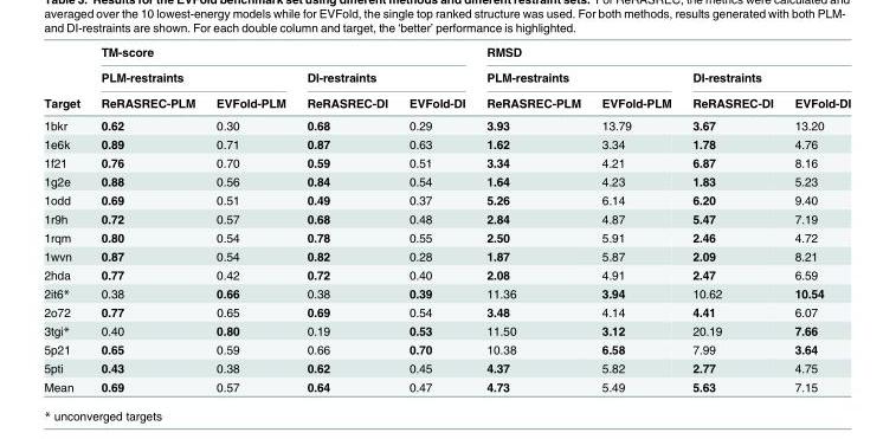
<table><thead><tr><td rowspan="3">Target</td><td colspan="4">TM-score</td><td colspan="4">RMSD</td></tr><tr><td colspan="2">PLM-restraints</td><td colspan="2">DI-restraints</td><td colspan="2">PLM-restraints</td><td colspan="2">DI-restraints</td></tr><tr><td>ReRASREC-PLM</td><td>EVFold-PLM</td><td>ReRASREC-DI</td><td>EVFold-DI</td><td>ReRASREC-PLM</td><td>EVFold-PLM</td><td>ReRASREC-DI</td><td>EVFold-DI</td></tr></thead><tbody><tr><td>1bkr</td><td>0.62</td><td>0.30</td><td>0.68</td><td>0.29</td><td>3.93</td><td>13.79</td><td>3.67</td><td>13.20</td></tr><tr><td>1e6k</td><td>0.89</td><td>0.71</td><td>0.87</td><td>0.63</td><td>1.62</td><td>3.34</td><td>1.78</td><td>4.76</td></tr><tr><td>1f21</td><td>0.76</td><td>0.70</td><td>0.59</td><td>0.51</td><td>3.34</td><td>4.21</td><td>6.87</td><td>8.16</td></tr><tr><td>1g2e</td><td>0.88</td><td>0.56</td><td>0.84</td><td>0.54</td><td>1.64</td><td>4.23</td><td>1.83</td><td>5.23</td></tr><tr><td>1odd</td><td>0.69</td><td>0.51</td><td>0.49</td><td>0.37</td><td>5.26</td><td>6.14</td><td>6.20</td><td>9.40</td></tr><tr><td>1r9h</td><td>0.72</td><td>0.57</td><td>0.68</td><td>0.48</td><td>2.84</td><td>4.87</td><td>5.47</td><td>7.19</td></tr><tr><td>1rqm</td><td>0.80</td><td>0.54</td><td>0.78</td><td>0.55</td><td>2.50</td><td>5.91</td><td>2.46</td><td>4.72</td></tr><tr><td>1wvn</td><td>0.87</td><td>0.54</td><td>0.82</td><td>0.28</td><td>1.87</td><td>5.87</td><td>2.09</td><td>8.21</td></tr><tr><td>2hda</td><td>0.77</td><td>0.42</td><td>0.72</td><td>0.40</td><td>2.08</td><td>4.91</td><td>2.47</td><td>6.59</td></tr><tr><td>2it6*</td><td>0.38</td><td>0.66</td><td>0.38</td><td>0.39</td><td>11.36</td><td>3.94</td><td>10.62</td><td>10.54</td></tr><tr><td>2o72</td><td>0.77</td><td>0.65</td><td>0.69</td><td>0.54</td><td>3.48</td><td>4.14</td><td>4.41</td><td>6.07</td></tr><tr><td>3tgi*</td><td>0.40</td><td>0.80</td><td>0.19</td><td>0.53</td><td>11.50</td><td>3.12</td><td>20.19</td><td>7.66</td></tr><tr><td>5p21</td><td>0.65</td><td>0.59</td><td>0.66</td><td>0.70</td><td>10.38</td><td>6.58</td><td>7.99</td><td>3.64</td></tr><tr><td>5pti</td><td>0.43</td><td>0.38</td><td>0.62</td><td>0.45</td><td>4.37</td><td>5.82</td><td>2.77</td><td>4.75</td></tr><tr><td>Mean</td><td>0.69</td><td>0.57</td><td>0.64</td><td>0.47</td><td>4.73</td><td>5.49</td><td>5.63</td><td>7.15</td></tr></tbody></table>